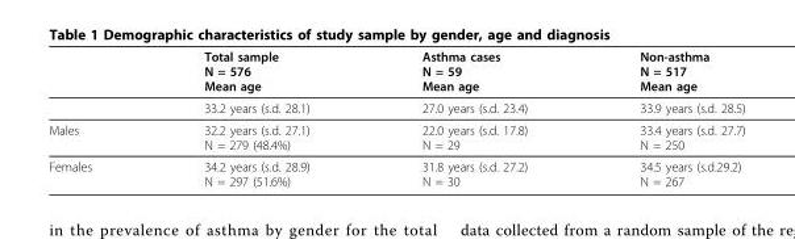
<table><thead><tr><td></td><td>Total sample N = 576 Mean age</td><td>Asthma cases N = 59 Mean age</td><td>Non-asthma N = 517 Mean age</td></tr></thead><tbody><tr><td></td><td>33.2 years (s.d. 28.1)</td><td>27.0 years (s.d. 23.4)</td><td>33.9 years (s.d. 28.5)</td></tr><tr><td>Males</td><td>32.2 years (s.d. 27.1) N = 279 (48.4%)</td><td>22.0 years (s.d. 17.8) N = 29</td><td>33.4 years (s.d. 27.7) N = 250</td></tr><tr><td>Females</td><td>34.2 years (s.d. 28.9) N = 297 (51.6%)</td><td>31.8 years (s.d. 27.2) N = 30</td><td>34.5 years (s.d.29.2) N = 267</td></tr></tbody></table>